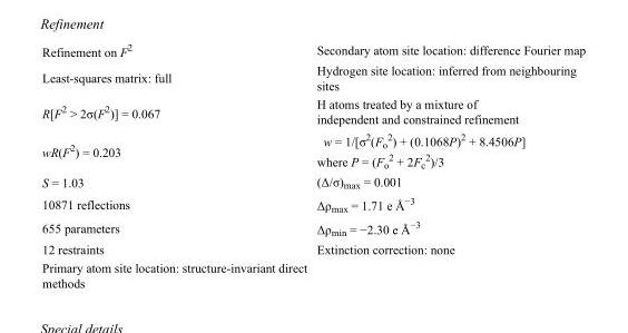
<table><tbody><tr><td>Refinement on F<sup>2</sup></td><td>Secondary atom site location: difference Fourier map</td></tr><tr><td>Least-squares matrix: full</td><td>Hydrogen site location: inferred from neighbouring sites</td></tr><tr><td>R[F<sup>2</sup> &gt; 2σ(F<sup>2</sup>)] = 0.067</td><td>H atoms treated by a mixture of independent and constrained refinement</td></tr><tr><td>wR(F<sup>2</sup>) = 0.203</td><td>w = 1/[σ<sup>2</sup>(F<sub>o</sub> <sup>2</sup>) + (0.1068P)<sup>2</sup> + 8.4506P] where P = (F<sub>o</sub> <sup>2</sup> + 2F<sub>c</sub> <sup>2</sup>)/3</td></tr><tr><td>S = 1.03</td><td>(Δ/σ)<sub>max</sub> = 0.001</td></tr><tr><td>10871 reflections</td><td>Δρ<sub>max</sub> = 1.71 e Å<sup>−3</sup></td></tr><tr><td>655 parameters</td><td>Δρ<sub>min</sub> = −2.30 e Å<sup>−3</sup></td></tr><tr><td>12 restraints</td><td>Extinction correction: none</td></tr><tr><td>Primary atom site location: structure-invariant direct methods</td><td></td></tr></tbody></table>